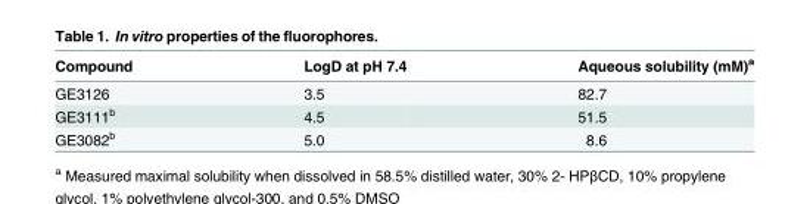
<table><thead><tr><td>Compound</td><td>LogD at pH 7.4</td><td>Aqueous solubility (mM)<sup>a</sup></td></tr></thead><tbody><tr><td>GE3126</td><td>3.5</td><td>82.7</td></tr><tr><td>GE3111<sup>b</sup></td><td>4.5</td><td>51.5</td></tr><tr><td>GE3082<sup>b</sup></td><td>5.0</td><td>8.6</td></tr></tbody></table>